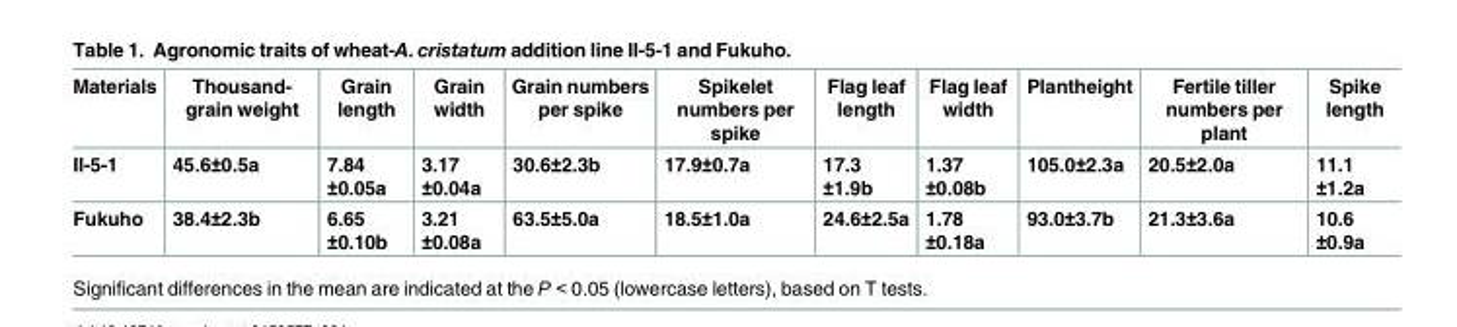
<table><thead><tr><td>Materials</td><td>Thousand- grain weight</td><td>Grain length</td><td>Grain width</td><td>Grain numbers per spike</td><td>Spikelet numbers per spike</td><td>Flag leaf length</td><td>Flag leaf width</td><td>Plantheight</td><td>Fertile tiller numbers per plant</td><td>Spike length</td></tr></thead><tbody><tr><td>II-5-1</td><td>45.6±0.5a</td><td>7.84 ±0.05a</td><td>3.17 ±0.04a</td><td>30.6±2.3b</td><td>17.9±0.7a</td><td>17.3 ±1.9b</td><td>1.37 ±0.08b</td><td>105.0±2.3a</td><td>20.5±2.0a</td><td>11.1 ±1.2a</td></tr><tr><td>Fukuho</td><td>38.4±2.3b</td><td>6.65 ±0.10b</td><td>3.21 ±0.08a</td><td>63.5±5.0a</td><td>18.5±1.0a</td><td>24.6±2.5a</td><td>1.78 ±0.18a</td><td>93.0±3.7b</td><td>21.3±3.6a</td><td>10.6 ±0.9a</td></tr></tbody></table>